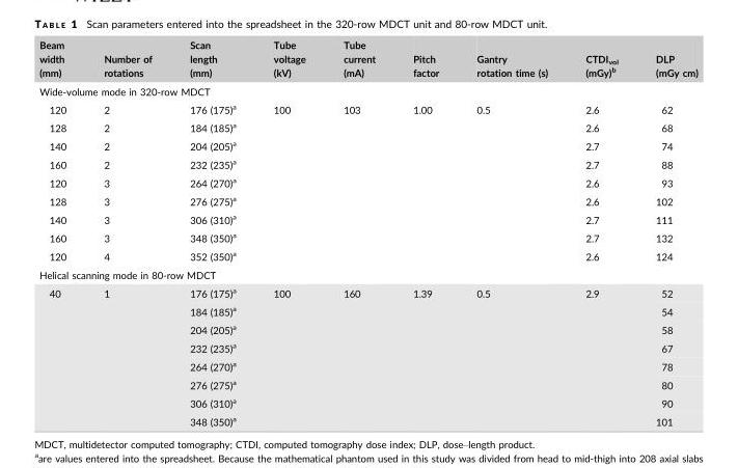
<table><thead><tr><td>Beam width (mm)</td><td>Number of rotations</td><td>Scan length (mm)</td><td>Tube voltage (kV)</td><td>Tube current (mA)</td><td>Pitch factor</td><td>Gantry rotation time (s)</td><td>CTDI<sub>vol</sub> (mGy)<sup>b</sup></td><td>DLP (mGy cm)</td></tr></thead><tbody><tr><td colspan="9">Wide-volume mode in 320-row MDCT</td></tr><tr><td>120</td><td>2</td><td>176 (175)<sup>a</sup></td><td rowspan="9">100</td><td rowspan="9">103</td><td rowspan="9">1.00</td><td rowspan="9">0.5</td><td>2.6</td><td>62</td></tr><tr><td>128</td><td>2</td><td>184 (185)<sup>a</sup></td><td>2.6</td><td>68</td></tr><tr><td>140</td><td>2</td><td>204 (205)<sup>a</sup></td><td>2.7</td><td>74</td></tr><tr><td>160</td><td>2</td><td>232 (235)<sup>a</sup></td><td>2.7</td><td>88</td></tr><tr><td>120</td><td>3</td><td>264 (270)<sup>a</sup></td><td>2.6</td><td>93</td></tr><tr><td>128</td><td>3</td><td>276 (275)<sup>a</sup></td><td>2.6</td><td>102</td></tr><tr><td>140</td><td>3</td><td>306 (310)<sup>a</sup></td><td>2.7</td><td>111</td></tr><tr><td>160</td><td>3</td><td>348 (350)<sup>a</sup></td><td>2.7</td><td>132</td></tr><tr><td>120</td><td>4</td><td>352 (350)<sup>a</sup></td><td>2.6</td><td>124</td></tr><tr><td colspan="9">Helical scanning mode in 80-row MDCT</td></tr><tr><td rowspan="8">40</td><td rowspan="8">1</td><td>176 (175)<sup>a</sup></td><td rowspan="8">100</td><td rowspan="8">160</td><td rowspan="8">1.39</td><td rowspan="8">0.5</td><td rowspan="8">2.9</td><td>52</td></tr><tr><td>184 (185)<sup>a</sup></td><td>54</td></tr><tr><td>204 (205)<sup>a</sup></td><td>58</td></tr><tr><td>232 (235)<sup>a</sup></td><td>67</td></tr><tr><td>264 (270)<sup>a</sup></td><td>78</td></tr><tr><td>276 (275)<sup>a</sup></td><td>80</td></tr><tr><td>306 (310)<sup>a</sup></td><td>90</td></tr><tr><td>348 (350)<sup>a</sup></td><td>101</td></tr></tbody></table>